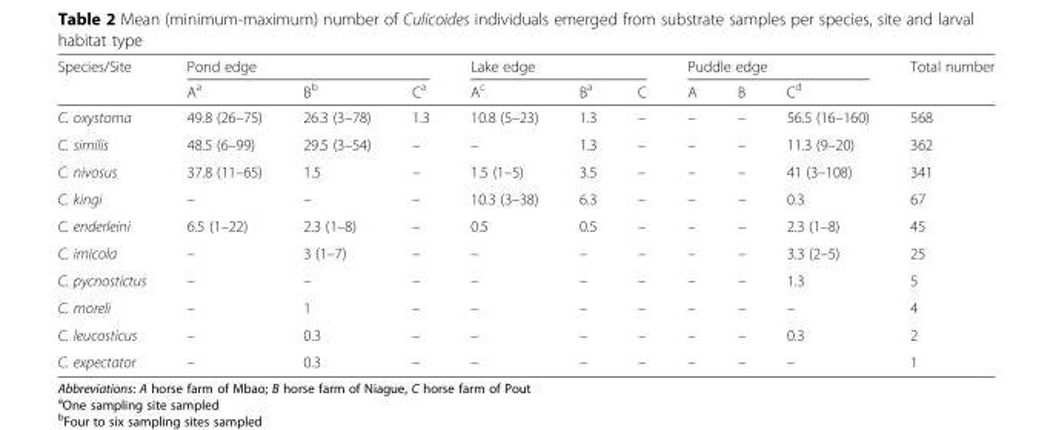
<table><thead><tr><td rowspan="2">Species/Site</td><td colspan="3">Pond edge</td><td colspan="3">Lake edge</td><td colspan="3">Puddle edge</td><td rowspan="2">Total number</td></tr><tr><td>A<sup>a</sup></td><td>B<sup>b</sup></td><td>C<sup>a</sup></td><td>A<sup>c</sup></td><td>B<sup>a</sup></td><td>C</td><td>A</td><td>B</td><td>C<sup>d</sup></td></tr></thead><tbody><tr><td>C. oxystoma</td><td>49.8 (26–75)</td><td>26.3 (3–78)</td><td>1.3</td><td>10.8 (5–23)</td><td>1.3</td><td>–</td><td>–</td><td>–</td><td>56.5 (16–160)</td><td>568</td></tr><tr><td>C. similis</td><td>48.5 (6–99)</td><td>29.5 (3–54)</td><td>–</td><td>–</td><td>1.3</td><td>–</td><td>–</td><td>–</td><td>11.3 (9–20)</td><td>362</td></tr><tr><td>C. nivosus</td><td>37.8 (11–65)</td><td>1.5</td><td>–</td><td>1.5 (1–5)</td><td>3.5</td><td>–</td><td>–</td><td>–</td><td>41 (3–108)</td><td>341</td></tr><tr><td>C. kingi</td><td>–</td><td>–</td><td>–</td><td>10.3 (3–38)</td><td>6.3</td><td>–</td><td>–</td><td>–</td><td>0.3</td><td>67</td></tr><tr><td>C. enderleini</td><td>6.5 (1–22)</td><td>2.3 (1–8)</td><td>–</td><td>0.5</td><td>0.5</td><td>–</td><td>–</td><td>–</td><td>2.3 (1–8)</td><td>45</td></tr><tr><td>C. imicola</td><td>–</td><td>3 (1–7)</td><td>–</td><td>–</td><td>–</td><td>–</td><td>–</td><td>–</td><td>3.3 (2–5)</td><td>25</td></tr><tr><td>C. pycnostictus</td><td>–</td><td>–</td><td>–</td><td>–</td><td>–</td><td>–</td><td>–</td><td>–</td><td>1.3</td><td>5</td></tr><tr><td>C. moreli</td><td>–</td><td>1</td><td>–</td><td>–</td><td>–</td><td>–</td><td>–</td><td>–</td><td>–</td><td>4</td></tr><tr><td>C. leucosticus</td><td>–</td><td>0.3</td><td>–</td><td>–</td><td>–</td><td>–</td><td>–</td><td>–</td><td>0.3</td><td>2</td></tr><tr><td>C. expectator</td><td>–</td><td>0.3</td><td>–</td><td>–</td><td>–</td><td>–</td><td>–</td><td>–</td><td>–</td><td>1</td></tr></tbody></table>